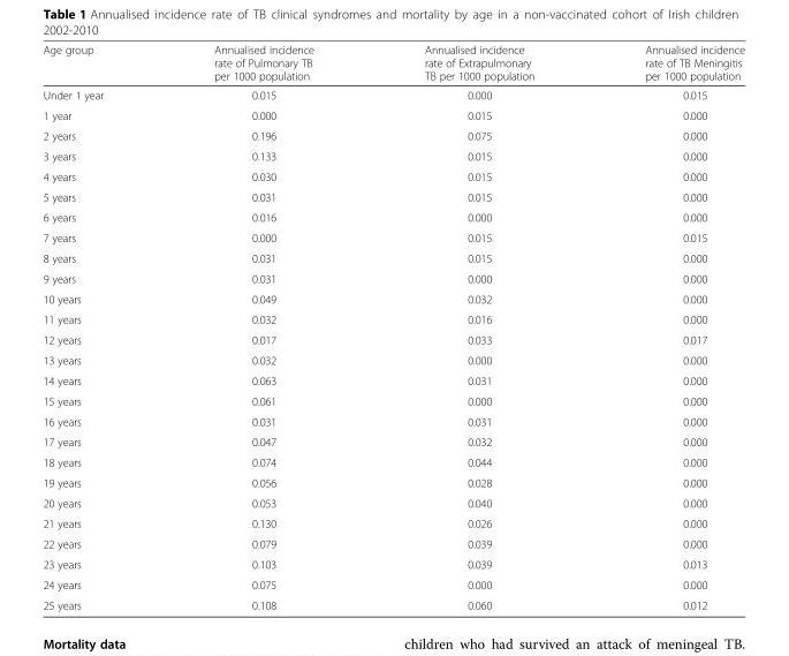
<table><thead><tr><td>Age group</td><td>Annualised incidence rate of Pulmonary TB per 1000 population</td><td>Annualised incidence rate of Extrapulmonary TB per 1000 population</td><td>Annualised incidence rate of TB Meningitis per 1000 population</td></tr></thead><tbody><tr><td>Under 1 year</td><td>0.015</td><td>0.000</td><td>0.015</td></tr><tr><td>1 year</td><td>0.000</td><td>0.015</td><td>0.000</td></tr><tr><td>2 years</td><td>0.196</td><td>0.075</td><td>0.000</td></tr><tr><td>3 years</td><td>0.133</td><td>0.015</td><td>0.000</td></tr><tr><td>4 years</td><td>0.030</td><td>0.015</td><td>0.000</td></tr><tr><td>5 years</td><td>0.031</td><td>0.015</td><td>0.000</td></tr><tr><td>6 years</td><td>0.016</td><td>0.000</td><td>0.000</td></tr><tr><td>7 years</td><td>0.000</td><td>0.015</td><td>0.015</td></tr><tr><td>8 years</td><td>0.031</td><td>0.015</td><td>0.000</td></tr><tr><td>9 years</td><td>0.031</td><td>0.000</td><td>0.000</td></tr><tr><td>10 years</td><td>0.049</td><td>0.032</td><td>0.000</td></tr><tr><td>11 years</td><td>0.032</td><td>0.016</td><td>0.000</td></tr><tr><td>12 years</td><td>0.017</td><td>0.033</td><td>0.017</td></tr><tr><td>13 years</td><td>0.032</td><td>0.000</td><td>0.000</td></tr><tr><td>14 years</td><td>0.063</td><td>0.031</td><td>0.000</td></tr><tr><td>15 years</td><td>0.061</td><td>0.000</td><td>0.000</td></tr><tr><td>16 years</td><td>0.031</td><td>0.031</td><td>0.000</td></tr><tr><td>17 years</td><td>0.047</td><td>0.032</td><td>0.000</td></tr><tr><td>18 years</td><td>0.074</td><td>0.044</td><td>0.000</td></tr><tr><td>19 years</td><td>0.056</td><td>0.028</td><td>0.000</td></tr><tr><td>20 years</td><td>0.053</td><td>0.040</td><td>0.000</td></tr><tr><td>21 years</td><td>0.130</td><td>0.026</td><td>0.000</td></tr><tr><td>22 years</td><td>0.079</td><td>0.039</td><td>0.000</td></tr><tr><td>23 years</td><td>0.103</td><td>0.039</td><td>0.013</td></tr><tr><td>24 years</td><td>0.075</td><td>0.000</td><td>0.000</td></tr><tr><td>25 years</td><td>0.108</td><td>0.060</td><td>0.012</td></tr></tbody></table>